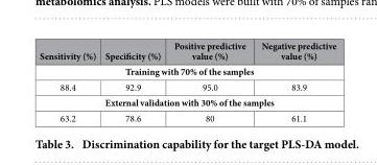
<table><thead><tr><td>Sensitivity (%)</td><td>Specificity (%)</td><td>Positive predictive value (%)</td><td>Negative predictive value (%)</td></tr></thead><tbody><tr><td colspan="4">Training with 70% of the samples</td></tr><tr><td>88.4</td><td>92.9</td><td>95.0</td><td>83.9</td></tr><tr><td colspan="4">External validation with 30% of the samples</td></tr><tr><td>63.2</td><td>78.6</td><td>80</td><td>61.1</td></tr></tbody></table>